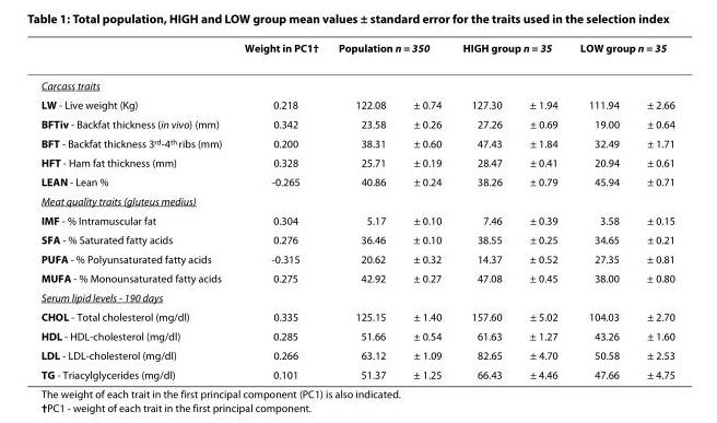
<table><thead><tr><td rowspan="2">Carcass traits</td><td rowspan="2">Weight in PC1<sup>†</sup></td><td colspan="2">Population n = 350</td><td colspan="2">HIGH group n = 35</td><td colspan="2">LOW group n = 35</td></tr><tr><td></td><td></td><td></td><td></td><td></td><td></td></tr></thead><tbody><tr><td>LW - Live weight (Kg)</td><td>0.218</td><td>122.08</td><td>± 0.74</td><td>127.30</td><td>± 1.94</td><td>111.94</td><td>± 2.66</td></tr><tr><td>BFTiv - Backfat thickness (in vivo) (mm)</td><td>0.342</td><td>23.58</td><td>± 0.26</td><td>27.26</td><td>± 0.69</td><td>19.00</td><td>± 0.64</td></tr><tr><td>BFT - Backfat thickness 3<sup>rd</sup>-4<sup>th</sup> ribs (mm)</td><td>0.200</td><td>38.31</td><td>± 0.60</td><td>47.43</td><td>± 1.84</td><td>32.49</td><td>± 1.71</td></tr><tr><td>HFT - Ham fat thickness (mm)</td><td>0.328</td><td>25.71</td><td>± 0.19</td><td>28.47</td><td>± 0.41</td><td>20.94</td><td>± 0.61</td></tr><tr><td>LEAN - Lean %</td><td>-0.265</td><td>40.86</td><td>± 0.24</td><td>38.26</td><td>± 0.79</td><td>45.94</td><td>± 0.71</td></tr><tr><td colspan="8">Meat quality traits (gluteus medius)</td></tr><tr><td>IMF - % Intramuscular fat</td><td>0.304</td><td>5.17</td><td>± 0.10</td><td>7.46</td><td>± 0.39</td><td>3.58</td><td>± 0.15</td></tr><tr><td>SFA - % Saturated fatty acids</td><td>0.276</td><td>36.46</td><td>± 0.10</td><td>38.55</td><td>± 0.25</td><td>34.65</td><td>± 0.21</td></tr><tr><td>PUFA - % Polyunsaturated fatty acids</td><td>-0.315</td><td>20.62</td><td>± 0.32</td><td>14.37</td><td>± 0.52</td><td>27.35</td><td>± 0.81</td></tr><tr><td>MUFA - % Monounsaturated fatty acids</td><td>0.275</td><td>42.92</td><td>± 0.27</td><td>47.08</td><td>± 0.45</td><td>38.00</td><td>± 0.80</td></tr><tr><td colspan="8">Serum lipid levels - 190 days</td></tr><tr><td>CHOL - Total cholesterol (mg/dl)</td><td>0.335</td><td>125.15</td><td>± 1.40</td><td>157.60</td><td>± 5.02</td><td>104.03</td><td>± 2.70</td></tr><tr><td>HDL - HDL-cholesterol (mg/dl)</td><td>0.285</td><td>51.66</td><td>± 0.54</td><td>61.63</td><td>± 1.27</td><td>43.26</td><td>± 1.60</td></tr><tr><td>LDL - LDL-cholesterol (mg/dl)</td><td>0.266</td><td>63.12</td><td>± 1.09</td><td>82.65</td><td>± 4.70</td><td>50.58</td><td>± 2.53</td></tr><tr><td>TG - Triacylglycerides (mg/dl)</td><td>0.101</td><td>51.37</td><td>± 1.25</td><td>66.43</td><td>± 4.46</td><td>47.66</td><td>± 4.75</td></tr></tbody></table>